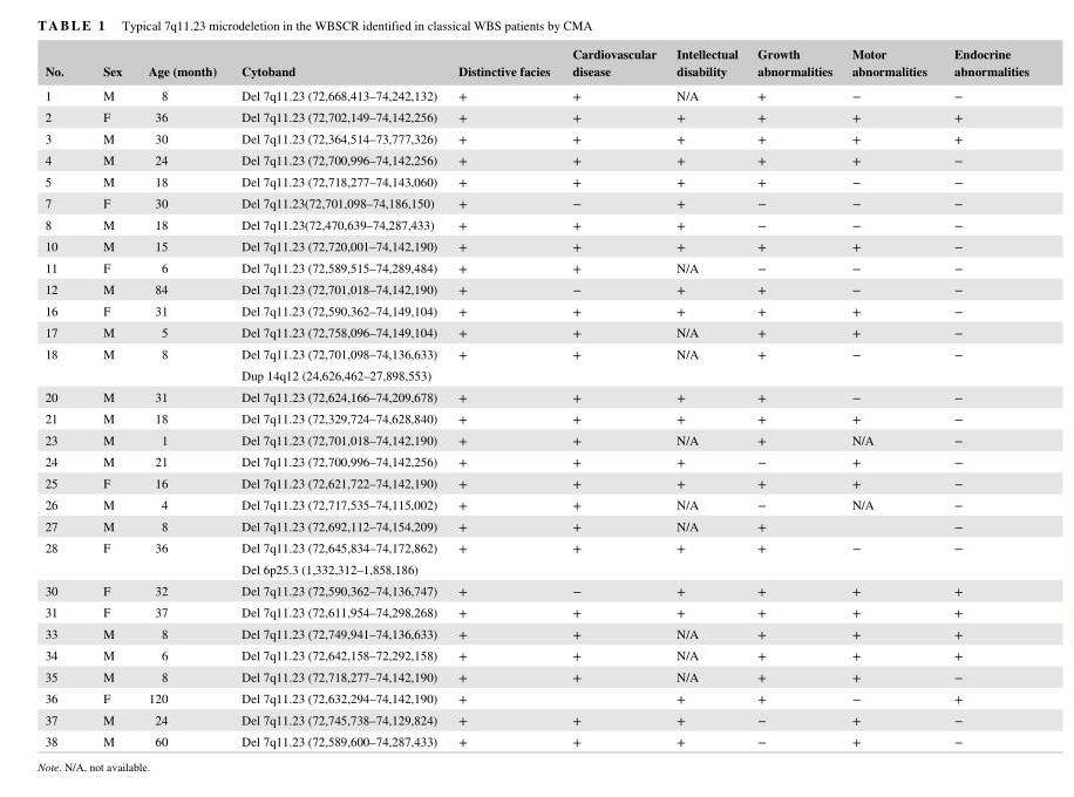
<table><thead><tr><td>No.</td><td>Sex</td><td>Age (month)</td><td>Cytoband</td><td>Distinctive facies</td><td>Cardiovascular disease</td><td>Intellectual disability</td><td>Growth abnormalities</td><td>Motor abnormalities</td><td>Endocrine abnormalities</td></tr></thead><tbody><tr><td>1</td><td>M</td><td>8</td><td>Del 7q11.23 (72,668,413–74,242,132)</td><td>+</td><td>+</td><td>N/A</td><td>+</td><td>−</td><td>−</td></tr><tr><td>2</td><td>F</td><td>36</td><td>Del 7q11.23 (72,702,149–74,142,256)</td><td>+</td><td>+</td><td>+</td><td>+</td><td>+</td><td>+</td></tr><tr><td>3</td><td>M</td><td>30</td><td>Del 7q11.23 (72,364,514–73,777,326)</td><td>+</td><td>+</td><td>+</td><td>+</td><td>+</td><td>+</td></tr><tr><td>4</td><td>M</td><td>24</td><td>Del 7q11.23 (72,700,996–74,142,256)</td><td>+</td><td>+</td><td>+</td><td>+</td><td>+</td><td>−</td></tr><tr><td>5</td><td>M</td><td>18</td><td>Del 7q11.23 (72,718,277–74,143,060)</td><td>+</td><td>+</td><td>+</td><td>+</td><td>−</td><td>−</td></tr><tr><td>7</td><td>F</td><td>30</td><td>Del 7q11.23(72,701,098–74,186,150)</td><td>+</td><td>−</td><td>+</td><td>−</td><td>−</td><td>−</td></tr><tr><td>8</td><td>M</td><td>18</td><td>Del 7q11.23(72,470,639–74,287,433)</td><td>+</td><td>+</td><td>+</td><td>−</td><td>−</td><td>−</td></tr><tr><td>10</td><td>M</td><td>15</td><td>Del 7q11.23 (72,720,001–74,142,190)</td><td>+</td><td>+</td><td>+</td><td>+</td><td>+</td><td>−</td></tr><tr><td>11</td><td>F</td><td>6</td><td>Del 7q11.23 (72,589,515–74,289,484)</td><td>+</td><td>+</td><td>N/A</td><td>−</td><td>−</td><td>−</td></tr><tr><td>12</td><td>M</td><td>84</td><td>Del 7q11.23 (72,701,018–74,142,190)</td><td>+</td><td>−</td><td>+</td><td>+</td><td>−</td><td>−</td></tr><tr><td>16</td><td>F</td><td>31</td><td>Del 7q11.23 (72,590,362–74,149,104)</td><td>+</td><td>+</td><td>+</td><td>+</td><td>+</td><td>−</td></tr><tr><td>17</td><td>M</td><td>5</td><td>Del 7q11.23 (72,758,096–74,149,104)</td><td>+</td><td>+</td><td>N/A</td><td>+</td><td>+</td><td>−</td></tr><tr><td rowspan="2">18</td><td rowspan="2">M</td><td rowspan="2">8</td><td>Del 7q11.23 (72,701,098–74,136,633)</td><td rowspan="2">+</td><td rowspan="2">+</td><td rowspan="2">N/A</td><td rowspan="2">+</td><td rowspan="2">−</td><td rowspan="2">−</td></tr><tr><td>Dup 14q12 (24,626,462–27,898,553)</td></tr><tr><td>20</td><td>M</td><td>31</td><td>Del 7q11.23 (72,624,166–74,209,678)</td><td>+</td><td>+</td><td>+</td><td>+</td><td>−</td><td>−</td></tr><tr><td>21</td><td>M</td><td>18</td><td>Del 7q11.23 (72,329,724–74,628,840)</td><td>+</td><td>+</td><td>+</td><td>+</td><td>+</td><td>−</td></tr><tr><td>23</td><td>M</td><td>1</td><td>Del 7q11.23 (72,701,018–74,142,190)</td><td>+</td><td>+</td><td>N/A</td><td>+</td><td>N/A</td><td>−</td></tr><tr><td>24</td><td>M</td><td>21</td><td>Del 7q11.23 (72,700,996–74,142,256)</td><td>+</td><td>+</td><td>+</td><td>−</td><td>+</td><td>−</td></tr><tr><td>25</td><td>F</td><td>16</td><td>Del 7q11.23 (72,621,722–74,142,190)</td><td>+</td><td>+</td><td>+</td><td>+</td><td>+</td><td>−</td></tr><tr><td>26</td><td>M</td><td>4</td><td>Del 7q11.23 (72,717,535–74,115,002)</td><td>+</td><td>+</td><td>N/A</td><td>−</td><td>N/A</td><td>−</td></tr><tr><td>27</td><td>M</td><td>8</td><td>Del 7q11.23 (72,692,112–74,154,209)</td><td>+</td><td>+</td><td>N/A</td><td>+</td><td></td><td>−</td></tr><tr><td rowspan="2">28</td><td rowspan="2">F</td><td rowspan="2">36</td><td>Del 7q11.23 (72,645,834–74,172,862)</td><td rowspan="2">+</td><td rowspan="2">+</td><td rowspan="2">+</td><td rowspan="2">+</td><td rowspan="2">−</td><td rowspan="2">−</td></tr><tr><td>Del 6p25.3 (1,332,312–1,858,186)</td></tr><tr><td>30</td><td>F</td><td>32</td><td>Del 7q11.23 (72,590,362–74,136,747)</td><td>+</td><td>−</td><td>+</td><td>+</td><td>+</td><td>+</td></tr><tr><td>31</td><td>F</td><td>37</td><td>Del 7q11.23 (72,611,954–74,298,268)</td><td>+</td><td>+</td><td>+</td><td>+</td><td>+</td><td>+</td></tr><tr><td>33</td><td>M</td><td>8</td><td>Del 7q11.23 (72,749,941–74,136,633)</td><td>+</td><td>+</td><td>N/A</td><td>+</td><td>+</td><td>+</td></tr><tr><td>34</td><td>M</td><td>6</td><td>Del 7q11.23 (72,642,158–72,292,158)</td><td>+</td><td>+</td><td>N/A</td><td>+</td><td>+</td><td>+</td></tr><tr><td>35</td><td>M</td><td>8</td><td>Del 7q11.23 (72,718,277–74,142,190)</td><td>+</td><td>+</td><td>N/A</td><td>+</td><td>+</td><td>−</td></tr><tr><td>36</td><td>F</td><td>120</td><td>Del 7q11.23 (72,632,294–74,142,190)</td><td>+</td><td></td><td>+</td><td>+</td><td>−</td><td>+</td></tr><tr><td>37</td><td>M</td><td>24</td><td>Del 7q11.23 (72,745,738–74,129,824)</td><td>+</td><td>+</td><td>+</td><td>−</td><td>+</td><td>−</td></tr><tr><td>38</td><td>M</td><td>60</td><td>Del 7q11.23 (72,589,600–74,287,433)</td><td>+</td><td>+</td><td>+</td><td>−</td><td>+</td><td>−</td></tr></tbody></table>